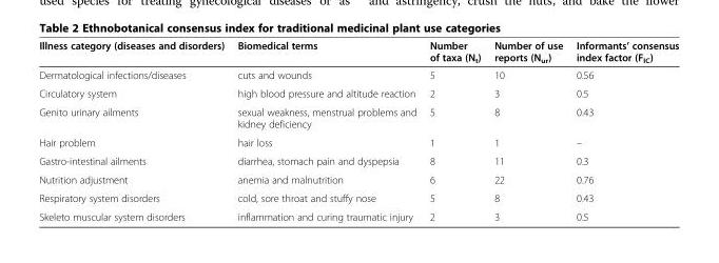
<table><thead><tr><td>Illness category (diseases and disorders)</td><td>Biomedical terms</td><td>Number of taxa (N<sub>t</sub>)</td><td>Number of use reports (N<sub>ur</sub>)</td><td>Informants’ consensus index factor (F<sub>IC</sub>)</td></tr></thead><tbody><tr><td>Dermatological infections/diseases</td><td>cuts and wounds</td><td>5</td><td>10</td><td>0.56</td></tr><tr><td>Circulatory system</td><td>high blood pressure and altitude reaction</td><td>2</td><td>3</td><td>0.5</td></tr><tr><td>Genito urinary ailments</td><td>sexual weakness, menstrual problems and kidney deficiency</td><td>5</td><td>8</td><td>0.43</td></tr><tr><td>Hair problem</td><td>hair loss</td><td>1</td><td>1</td><td>–</td></tr><tr><td>Gastro-intestinal ailments</td><td>diarrhea, stomach pain and dyspepsia</td><td>8</td><td>11</td><td>0.3</td></tr><tr><td>Nutrition adjustment</td><td>anemia and malnutrition</td><td>6</td><td>22</td><td>0.76</td></tr><tr><td>Respiratory system disorders</td><td>cold, sore throat and stuffy nose</td><td>5</td><td>8</td><td>0.43</td></tr><tr><td>Skeleto muscular system disorders</td><td>inflammation and curing traumatic injury</td><td>2</td><td>3</td><td>0.5</td></tr></tbody></table>